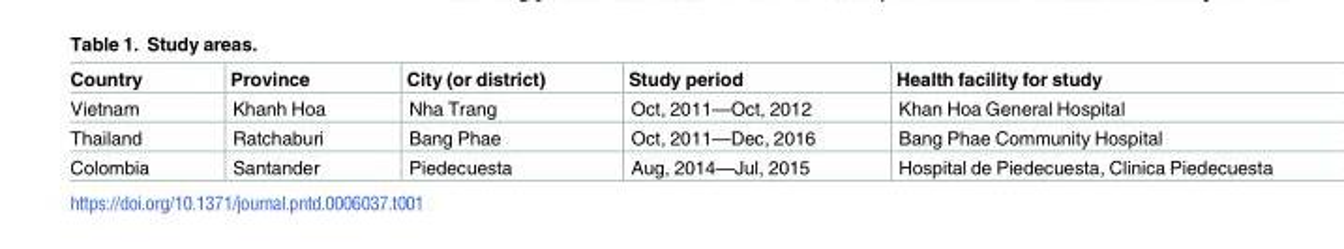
<table><thead><tr><td>Country</td><td>Province</td><td>City (or district)</td><td>Study period</td><td>Health facility for study</td></tr></thead><tbody><tr><td>Vietnam</td><td>Khanh Hoa</td><td>Nha Trang</td><td>Oct, 2011—Oct, 2012</td><td>Khan Hoa General Hospital</td></tr><tr><td>Thailand</td><td>Ratchaburi</td><td>Bang Phae</td><td>Oct, 2011—Dec, 2016</td><td>Bang Phae Community Hospital</td></tr><tr><td>Colombia</td><td>Santander</td><td>Piedecuesta</td><td>Aug, 2014—Jul, 2015</td><td>Hospital de Piedecuesta, Clinica Piedecuesta</td></tr></tbody></table>